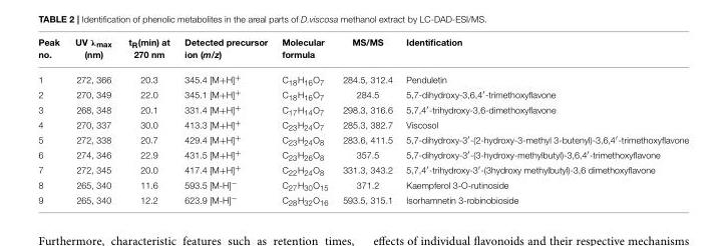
<table><thead><tr><td>Peak no.</td><td>UV λ<sub>max</sub> (nm)</td><td>t<sub>R</sub>(min) at 270 nm</td><td>Detected precursor ion (m/z)</td><td>Molecular formula</td><td>MS/MS</td><td>Identification</td></tr></thead><tbody><tr><td>1</td><td>272, 366</td><td>20.3</td><td>345.4 [M+H]<sup>+</sup></td><td>C<sub>18</sub>H<sub>16</sub>O<sub>7</sub></td><td>284.5, 312.4</td><td>Penduletin</td></tr><tr><td>2</td><td>270, 349</td><td>22.0</td><td>345.1 [M+H]<sup>+</sup></td><td>C<sub>18</sub>H<sub>16</sub>O<sub>7</sub></td><td>284.5</td><td>5,7-dihydroxy-3,6,4′-trimethoxyflavone</td></tr><tr><td>3</td><td>268, 348</td><td>20.1</td><td>331.4 [M+H]<sup>+</sup></td><td>C<sub>17</sub>H<sub>14</sub>O<sub>7</sub></td><td>298.3, 316.6</td><td>5,7,4′-trihydroxy-3,6-dimethoxyflavone</td></tr><tr><td>4</td><td>270, 337</td><td>30.0</td><td>413.3 [M+H]<sup>+</sup></td><td>C<sub>23</sub>H<sub>24</sub>O<sub>7</sub></td><td>285.3, 382.7</td><td>Viscosol</td></tr><tr><td>5</td><td>272, 338</td><td>20.7</td><td>429.4 [M+H]<sup>+</sup></td><td>C<sub>23</sub>H<sub>24</sub>O<sub>8</sub></td><td>283.6, 411.5</td><td>5,7-dihydroxy-3′-(2-hydroxy-3-methyl 3-butenyl)-3,6,4′-trimethoxyflavone</td></tr><tr><td>6</td><td>274, 346</td><td>22.9</td><td>431.5 [M+H]<sup>+</sup></td><td>C<sub>23</sub>H<sub>26</sub>O<sub>8</sub></td><td>357.5</td><td>5,7-dihydroxy-3′-(3-hydroxy-methylbutyl)-3,6,4′-trimethoxyflavone</td></tr><tr><td>7</td><td>272, 345</td><td>20.0</td><td>417.4 [M+H]<sup>+</sup></td><td>C<sub>22</sub>H<sub>24</sub>O<sub>8</sub></td><td>331.3, 343.2</td><td>5,7,4′-trihydroxy-3′-(3hydroxy methylbutyl)-3,6 dimethoxyflavone</td></tr><tr><td>8</td><td>265, 340</td><td>11.6</td><td>593.5 [M-H]<sup>−</sup></td><td>C<sub>27</sub>H<sub>30</sub>O<sub>15</sub></td><td>371.2</td><td>Kaempferol 3-O-rutinoside</td></tr><tr><td>9</td><td>265, 340</td><td>12.2</td><td>623.9 [M-H]<sup>−</sup></td><td>C<sub>28</sub>H<sub>32</sub>O<sub>16</sub></td><td>593.5, 315.1</td><td>Isorhamnetin 3-robinobioside</td></tr></tbody></table>